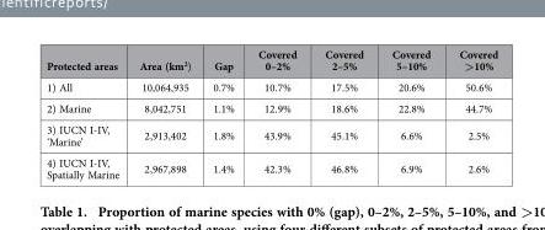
<table><thead><tr><td>Protected areas</td><td>Area (km<sup>2</sup>)</td><td>Gap</td><td>Covered 0–2%</td><td>Covered 2–5%</td><td>Covered 5–10%</td><td>Covered &gt;10%</td></tr></thead><tbody><tr><td>1) All</td><td>10,064,935</td><td>0.7%</td><td>10.7%</td><td>17.5%</td><td>20.6%</td><td>50.6%</td></tr><tr><td>2) Marine</td><td>8,042,751</td><td>1.1%</td><td>12.9%</td><td>18.6%</td><td>22.8%</td><td>44.7%</td></tr><tr><td>3) IUCN I-IV, ‘Marine’</td><td>2,913,402</td><td>1.8%</td><td>43.9%</td><td>45.1%</td><td>6.6%</td><td>2.5%</td></tr><tr><td>4) IUCN I-IV, Spatially Marine</td><td>2,967,898</td><td>1.4%</td><td>42.3%</td><td>46.8%</td><td>6.9%</td><td>2.6%</td></tr></tbody></table>